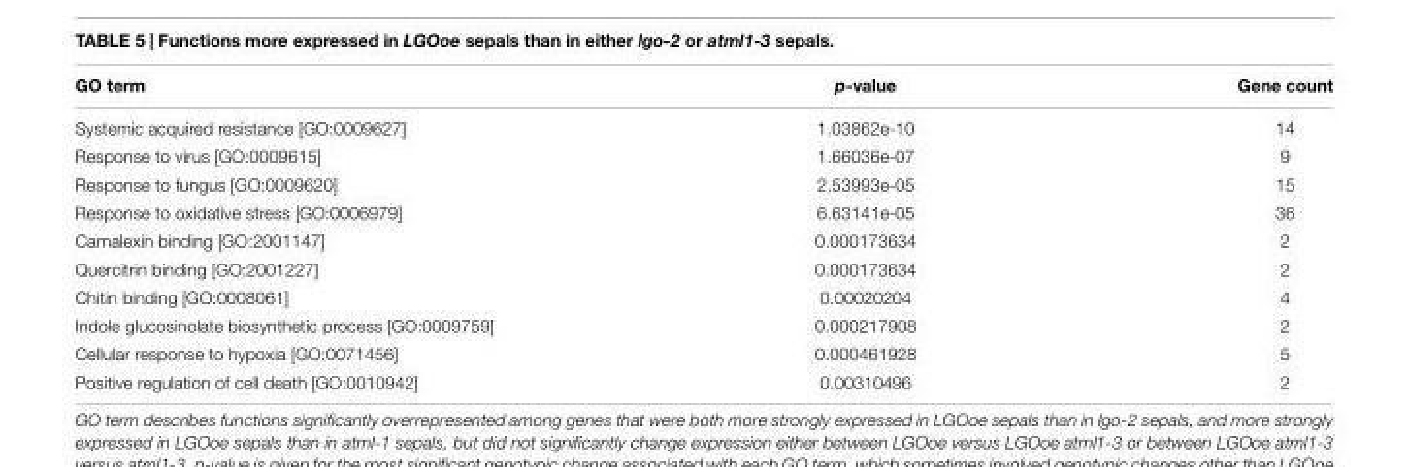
<table><thead><tr><td>GO term</td><td>p-value</td><td>Gene count</td></tr></thead><tbody><tr><td>Systemic acquired resistance [GO:0009627]</td><td>1.03862e-10</td><td>14</td></tr><tr><td>Response to virus [GO:0009615]</td><td>1.66036e-07</td><td>9</td></tr><tr><td>Response to fungus [GO:0009620]</td><td>2.53993e-05</td><td>15</td></tr><tr><td>Response to oxidative stress [GO:0006979]</td><td>6.63141e-05</td><td>36</td></tr><tr><td>Camalexin binding [GO:2001147]</td><td>0.000173634</td><td>2</td></tr><tr><td>Quercitrin binding [GO:2001227]</td><td>0.000173634</td><td>2</td></tr><tr><td>Chitin binding [GO:0008061]</td><td>0.00020204</td><td>4</td></tr><tr><td>Indole glucosinolate biosynthetic process [GO:0009759]</td><td>0.000217908</td><td>2</td></tr><tr><td>Cellular response to hypoxia [GO:0071456]</td><td>0.000461928</td><td>5</td></tr><tr><td>Positive regulation of cell death [GO:0010942]</td><td>0.00310496</td><td>2</td></tr></tbody></table>